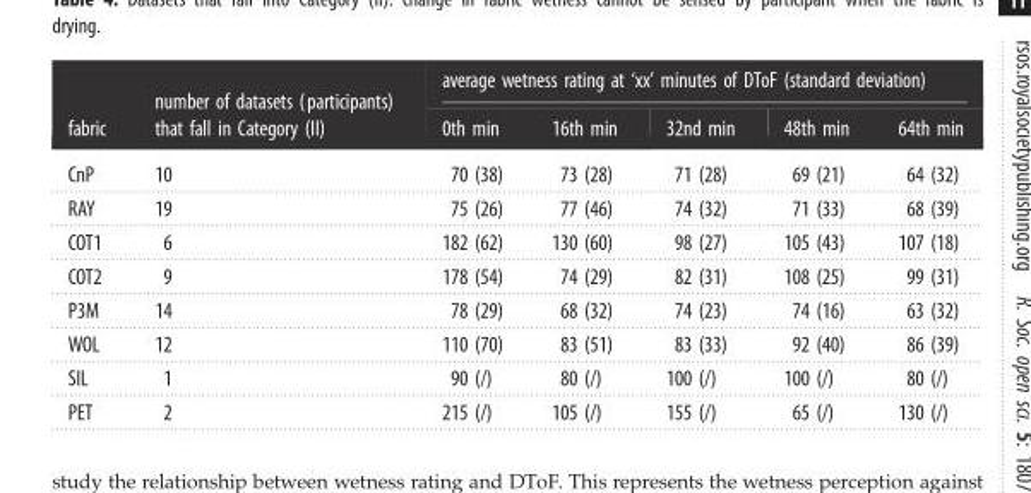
<table><thead><tr><td rowspan="2">fabric</td><td rowspan="2">number of datasets (participants) that fall in Category (II)</td><td colspan="5">average wetness rating at ‘xx’ minutes of DToF (standard deviation)</td></tr><tr><td>0th min</td><td>16th min</td><td>32nd min</td><td>48th min</td><td>64th min</td></tr></thead><tbody><tr><td>CnP</td><td>10</td><td>70 (38)</td><td>73 (28)</td><td>71 (28)</td><td>69 (21)</td><td>64 (32)</td></tr><tr><td>RAY</td><td>19</td><td>75 (26)</td><td>77 (46)</td><td>74 (32)</td><td>71 (33)</td><td>68 (39)</td></tr><tr><td>COT1</td><td>6</td><td>182 (62)</td><td>130 (60)</td><td>98 (27)</td><td>105 (43)</td><td>107 (18)</td></tr><tr><td>COT2</td><td>9</td><td>178 (54)</td><td>74 (29)</td><td>82 (31)</td><td>108 (25)</td><td>99 (31)</td></tr><tr><td>P3M</td><td>14</td><td>78 (29)</td><td>68 (32)</td><td>74 (23)</td><td>74 (16)</td><td>63 (32)</td></tr><tr><td>WOL</td><td>12</td><td>110 (70)</td><td>83 (51)</td><td>83 (33)</td><td>92 (40)</td><td>86 (39)</td></tr><tr><td>SIL</td><td>1</td><td>90 (/)</td><td>80 (/)</td><td>100 (/)</td><td>100 (/)</td><td>80 (/)</td></tr><tr><td>PET</td><td>2</td><td>215 (/)</td><td>105 (/)</td><td>155 (/)</td><td>65 (/)</td><td>130 (/)</td></tr></tbody></table>